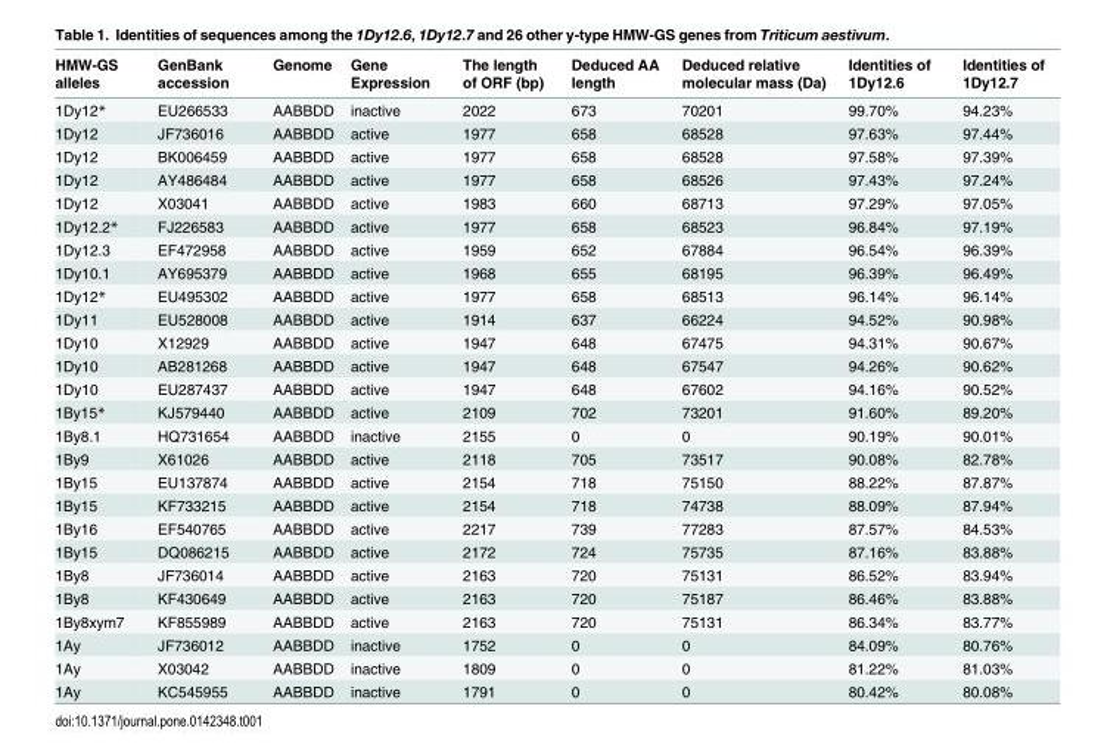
<table><thead><tr><td>HMW-GS alleles</td><td>GenBank accession</td><td>Genome</td><td>Gene Expression</td><td>The length of ORF (bp)</td><td>Deduced AA length</td><td>Deduced relative molecular mass (Da)</td><td>Identities of 1Dy12.6</td><td>Identities of 1Dy12.7</td></tr></thead><tbody><tr><td>1Dy12*</td><td>EU266533</td><td>AABBDD</td><td>inactive</td><td>2022</td><td>673</td><td>70201</td><td>99.70%</td><td>94.23%</td></tr><tr><td>1Dy12</td><td>JF736016</td><td>AABBDD</td><td>active</td><td>1977</td><td>658</td><td>68528</td><td>97.63%</td><td>97.44%</td></tr><tr><td>1Dy12</td><td>BK006459</td><td>AABBDD</td><td>active</td><td>1977</td><td>658</td><td>68528</td><td>97.58%</td><td>97.39%</td></tr><tr><td>1Dy12</td><td>AY486484</td><td>AABBDD</td><td>active</td><td>1977</td><td>658</td><td>68526</td><td>97.43%</td><td>97.24%</td></tr><tr><td>1Dy12</td><td>X03041</td><td>AABBDD</td><td>active</td><td>1983</td><td>660</td><td>68713</td><td>97.29%</td><td>97.05%</td></tr><tr><td>1Dy12.2*</td><td>FJ226583</td><td>AABBDD</td><td>active</td><td>1977</td><td>658</td><td>68523</td><td>96.84%</td><td>97.19%</td></tr><tr><td>1Dy12.3</td><td>EF472958</td><td>AABBDD</td><td>active</td><td>1959</td><td>652</td><td>67884</td><td>96.54%</td><td>96.39%</td></tr><tr><td>1Dy10.1</td><td>AY695379</td><td>AABBDD</td><td>active</td><td>1968</td><td>655</td><td>68195</td><td>96.39%</td><td>96.49%</td></tr><tr><td>1Dy12*</td><td>EU495302</td><td>AABBDD</td><td>active</td><td>1977</td><td>658</td><td>68513</td><td>96.14%</td><td>96.14%</td></tr><tr><td>1Dy11</td><td>EU528008</td><td>AABBDD</td><td>active</td><td>1914</td><td>637</td><td>66224</td><td>94.52%</td><td>90.98%</td></tr><tr><td>1Dy10</td><td>X12929</td><td>AABBDD</td><td>active</td><td>1947</td><td>648</td><td>67475</td><td>94.31%</td><td>90.67%</td></tr><tr><td>1Dy10</td><td>AB281268</td><td>AABBDD</td><td>active</td><td>1947</td><td>648</td><td>67547</td><td>94.26%</td><td>90.62%</td></tr><tr><td>1Dy10</td><td>EU287437</td><td>AABBDD</td><td>active</td><td>1947</td><td>648</td><td>67602</td><td>94.16%</td><td>90.52%</td></tr><tr><td>1By15*</td><td>KJ579440</td><td>AABBDD</td><td>active</td><td>2109</td><td>702</td><td>73201</td><td>91.60%</td><td>89.20%</td></tr><tr><td>1By8.1</td><td>HQ731654</td><td>AABBDD</td><td>inactive</td><td>2155</td><td>0</td><td>0</td><td>90.19%</td><td>90.01%</td></tr><tr><td>1By9</td><td>X61026</td><td>AABBDD</td><td>active</td><td>2118</td><td>705</td><td>73517</td><td>90.08%</td><td>82.78%</td></tr><tr><td>1By15</td><td>EU137874</td><td>AABBDD</td><td>active</td><td>2154</td><td>718</td><td>75150</td><td>88.22%</td><td>87.87%</td></tr><tr><td>1By15</td><td>KF733215</td><td>AABBDD</td><td>active</td><td>2154</td><td>718</td><td>74738</td><td>88.09%</td><td>87.94%</td></tr><tr><td>1By16</td><td>EF540765</td><td>AABBDD</td><td>active</td><td>2217</td><td>739</td><td>77283</td><td>87.57%</td><td>84.53%</td></tr><tr><td>1By15</td><td>DQ086215</td><td>AABBDD</td><td>active</td><td>2172</td><td>724</td><td>75735</td><td>87.16%</td><td>83.88%</td></tr><tr><td>1By8</td><td>JF736014</td><td>AABBDD</td><td>active</td><td>2163</td><td>720</td><td>75131</td><td>86.52%</td><td>83.94%</td></tr><tr><td>1By8</td><td>KF430649</td><td>AABBDD</td><td>active</td><td>2163</td><td>720</td><td>75187</td><td>86.46%</td><td>83.88%</td></tr><tr><td>1By8xym7</td><td>KF855989</td><td>AABBDD</td><td>active</td><td>2163</td><td>720</td><td>75131</td><td>86.34%</td><td>83.77%</td></tr><tr><td>1Ay</td><td>JF736012</td><td>AABBDD</td><td>inactive</td><td>1752</td><td>0</td><td>0</td><td>84.09%</td><td>80.76%</td></tr><tr><td>1Ay</td><td>X03042</td><td>AABBDD</td><td>inactive</td><td>1809</td><td>0</td><td>0</td><td>81.22%</td><td>81.03%</td></tr><tr><td>1Ay</td><td>KC545955</td><td>AABBDD</td><td>inactive</td><td>1791</td><td>0</td><td>0</td><td>80.42%</td><td>80.08%</td></tr></tbody></table>